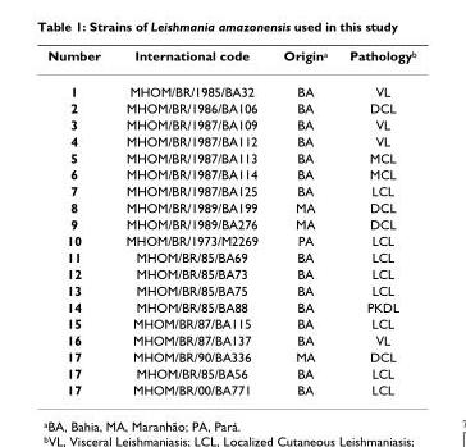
<table><thead><tr><td>Number</td><td>International code</td><td>Origin<sup>a</sup></td><td>Pathology<sup>b</sup></td></tr></thead><tbody><tr><td>1</td><td>MHOM/BR/1985/BA32</td><td>BA</td><td>VL</td></tr><tr><td>2</td><td>MHOM/BR/1986/BA106</td><td>BA</td><td>DCL</td></tr><tr><td>3</td><td>MHOM/BR/1987/BA109</td><td>BA</td><td>VL</td></tr><tr><td>4</td><td>MHOM/BR/1987/BA112</td><td>BA</td><td>VL</td></tr><tr><td>5</td><td>MHOM/BR/1987/BA113</td><td>BA</td><td>MCL</td></tr><tr><td>6</td><td>MHOM/BR/1987/BA114</td><td>BA</td><td>MCL</td></tr><tr><td>7</td><td>MHOM/BR/1987/BA125</td><td>BA</td><td>LCL</td></tr><tr><td>8</td><td>MHOM/BR/1989/BA199</td><td>MA</td><td>DCL</td></tr><tr><td>9</td><td>MHOM/BR/1989/BA276</td><td>MA</td><td>DCL</td></tr><tr><td>10</td><td>MHOM/BR/1973/M2269</td><td>PA</td><td>LCL</td></tr><tr><td>11</td><td>MHOM/BR/85/BA69</td><td>BA</td><td>LCL</td></tr><tr><td>12</td><td>MHOM/BR/85/BA73</td><td>BA</td><td>LCL</td></tr><tr><td>13</td><td>MHOM/BR/85/BA75</td><td>BA</td><td>LCL</td></tr><tr><td>14</td><td>MHOM/BR/85/BA88</td><td>BA</td><td>PKDL</td></tr><tr><td>15</td><td>MHOM/BR/87/BA115</td><td>BA</td><td>LCL</td></tr><tr><td>16</td><td>MHOM/BR/87/BA137</td><td>BA</td><td>VL</td></tr><tr><td>17</td><td>MHOM/BR/90/BA336</td><td>MA</td><td>DCL</td></tr><tr><td>17</td><td>MHOM/BR/85/BA56</td><td>BA</td><td>LCL</td></tr><tr><td>17</td><td>MHOM/BR/00/BA771</td><td>BA</td><td>LCL</td></tr></tbody></table>